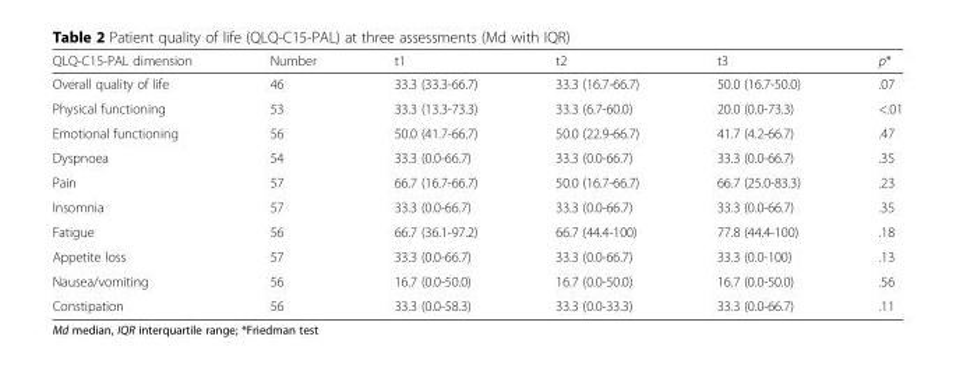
<table><thead><tr><td>QLQ-C15-PAL dimension</td><td>Number</td><td>t1</td><td>t2</td><td>t3</td><td>p*</td></tr></thead><tbody><tr><td>Overall quality of life</td><td>46</td><td>33.3 (33.3-66.7)</td><td>33.3 (16.7-66.7)</td><td>50.0 (16.7-50.0)</td><td>.07</td></tr><tr><td>Physical functioning</td><td>53</td><td>33.3 (13.3-73.3)</td><td>33.3 (6.7-60.0)</td><td>20.0 (0.0-73.3)</td><td>&lt;.01</td></tr><tr><td>Emotional functioning</td><td>56</td><td>50.0 (41.7-66.7)</td><td>50.0 (22.9-66.7)</td><td>41.7 (4.2-66.7)</td><td>.47</td></tr><tr><td>Dyspnoea</td><td>54</td><td>33.3 (0.0-66.7)</td><td>33.3 (0.0-66.7)</td><td>33.3 (0.0-66.7)</td><td>.35</td></tr><tr><td>Pain</td><td>57</td><td>66.7 (16.7-66.7)</td><td>50.0 (16.7-66.7)</td><td>66.7 (25.0-83.3)</td><td>.23</td></tr><tr><td>Insomnia</td><td>57</td><td>33.3 (0.0-66.7)</td><td>33.3 (0.0-66.7)</td><td>33.3 (0.0-66.7)</td><td>.35</td></tr><tr><td>Fatigue</td><td>56</td><td>66.7 (36.1-97.2)</td><td>66.7 (44.4-100)</td><td>77.8 (44.4-100)</td><td>.18</td></tr><tr><td>Appetite loss</td><td>57</td><td>33.3 (0.0-66.7)</td><td>33.3 (0.0-66.7)</td><td>33.3 (0.0-100)</td><td>.13</td></tr><tr><td>Nausea/vomiting</td><td>56</td><td>16.7 (0.0-50.0)</td><td>16.7 (0.0-50.0)</td><td>16.7 (0.0-50.0)</td><td>.56</td></tr><tr><td>Constipation</td><td>56</td><td>33.3 (0.0-58.3)</td><td>33.3 (0.0-33.3)</td><td>33.3 (0.0-66.7)</td><td>.11</td></tr></tbody></table>